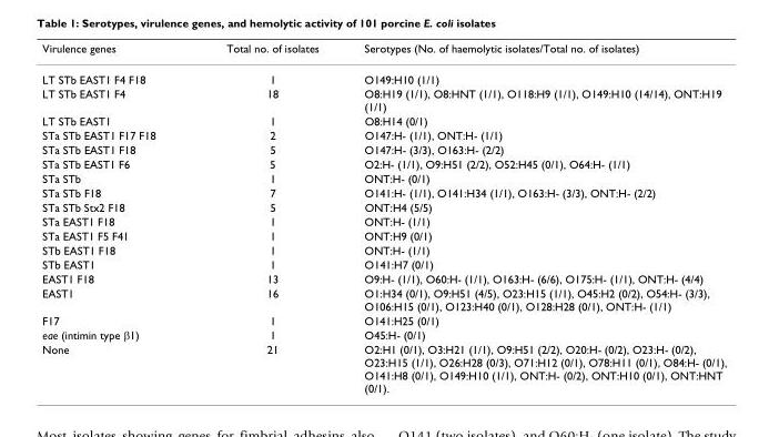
<table><thead><tr><td>Virulence genes</td><td>Total no. of isolates</td><td>Serotypes (No. of haemolytic isolates/Total no. of isolates)</td></tr></thead><tbody><tr><td>LT STb EAST1 F4 F18</td><td>1</td><td>O149:H10 (1/1)</td></tr><tr><td>LT STb EAST1 F4</td><td>18</td><td>O8:H19 (1/1), O8:HNT (1/1), O118:H9 (1/1), O149:H10 (14/14), ONT:H19 (1/1)</td></tr><tr><td>LT STb EAST1</td><td>1</td><td>O8:H14 (0/1)</td></tr><tr><td>STa STb EAST1 F17 F18</td><td>2</td><td>O147:H- (1/1), ONT:H- (1/1)</td></tr><tr><td>STa STb EAST1 F18</td><td>5</td><td>O147:H- (3/3), O163:H- (2/2)</td></tr><tr><td>STa STb EAST1 F6</td><td>5</td><td>O2:H- (1/1), O9:H51 (2/2), O52:H45 (0/1), O64:H- (1/1)</td></tr><tr><td>STa STb</td><td>1</td><td>ONT:H- (0/1)</td></tr><tr><td>STa STb F18</td><td>7</td><td>O141:H- (1/1), O141:H34 (1/1), O163:H- (3/3), ONT:H- (2/2)</td></tr><tr><td>STa STb Stx2 F18</td><td>5</td><td>ONT:H4 (5/5)</td></tr><tr><td>STa EAST1 F18</td><td>1</td><td>ONT:H- (1/1)</td></tr><tr><td>STa EAST1 F5 F41</td><td>1</td><td>ONT:H9 (0/1)</td></tr><tr><td>STb EAST1 F18</td><td>1</td><td>ONT:H- (1/1)</td></tr><tr><td>STb EAST1</td><td>1</td><td>O141:H7 (0/1)</td></tr><tr><td>EAST1 F18</td><td>13</td><td>O9:H- (1/1), O60:H- (1/1), O163:H- (6/6), O175:H- (1/1), ONT:H- (4/4)</td></tr><tr><td>EAST1</td><td>16</td><td>O1:H34 (0/1), O9:H51 (4/5), O23:H15 (1/1), O45:H2 (0/2), O54:H- (3/3), O106:H15 (0/1), O123:H40 (0/1), O128:H28 (0/1), ONT:H- (1/1)</td></tr><tr><td>F17</td><td>1</td><td>O141:H25 (0/1)</td></tr><tr><td>eae (intimin type β1)</td><td>1</td><td>O45:H- (0/1)</td></tr><tr><td>None</td><td>21</td><td>O2:H1 (0/1), O3:H21 (1/1), O9:H51 (2/2), O20:H- (0/2), O23:H- (0/2), O23:H15 (1/1), O26:H28 (0/3), O71:H12 (0/1), O78:H11 (0/1), O84:H- (0/1), O141:H8 (0/1), O149:H10 (1/1), ONT:H- (0/2), ONT:H10 (0/1), ONT:HNT (0/1).</td></tr></tbody></table>